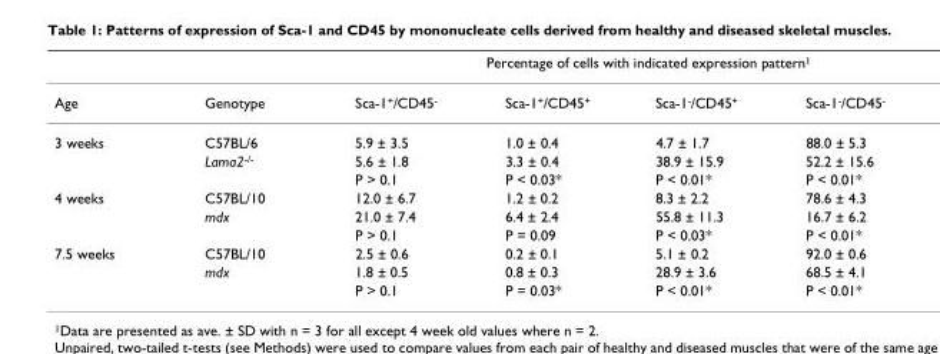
<table><thead><tr><td rowspan="2">Age</td><td rowspan="2">Genotype</td><td colspan="4">Percentage of cells with indicated expression pattern<sup>1</sup></td></tr><tr><td>Sca-1<sup>+</sup>/CD45<sup>-</sup></td><td>Sca-1<sup>+</sup>/CD45<sup>+</sup></td><td>Sca-1<sup>-</sup>/CD45<sup>+</sup></td><td>Sca-1<sup>-</sup>/CD45<sup>-</sup></td></tr></thead><tbody><tr><td rowspan="3">3 weeks</td><td>C57BL/6</td><td>5.9 ± 3.5</td><td>1.0 ± 0.4</td><td>4.7 ± 1.7</td><td>88.0 ± 5.3</td></tr><tr><td>Lama2<sup>-/-</sup></td><td>5.6 ± 1.8</td><td>3.3 ± 0.4</td><td>38.9 ± 15.9</td><td>52.2 ± 15.6</td></tr><tr><td></td><td>P &gt; 0.1</td><td>P &lt; 0.03*</td><td>P &lt; 0.01*</td><td>P &lt; 0.01*</td></tr><tr><td rowspan="3">4 weeks</td><td>C57BL/10</td><td>12.0 ± 6.7</td><td>1.2 ± 0.2</td><td>8.3 ± 2.2</td><td>78.6 ± 4.3</td></tr><tr><td>mdx</td><td>21.0 ± 7.4</td><td>6.4 ± 2.4</td><td>55.8 ± 11.3</td><td>16.7 ± 6.2</td></tr><tr><td></td><td>P &gt; 0.1</td><td>P = 0.09</td><td>P &lt; 0.03*</td><td>P &lt; 0.01*</td></tr><tr><td rowspan="3">7.5 weeks</td><td>C57BL/10</td><td>2.5 ± 0.6</td><td>0.2 ± 0.1</td><td>5.1 ± 0.2</td><td>92.0 ± 0.6</td></tr><tr><td>mdx</td><td>1.8 ± 0.5</td><td>0.8 ± 0.3</td><td>28.9 ± 3.6</td><td>68.5 ± 4.1</td></tr><tr><td></td><td>P &gt; 0.1</td><td>P = 0.03*</td><td>P &lt; 0.01*</td><td>P &lt; 0.01*</td></tr></tbody></table>